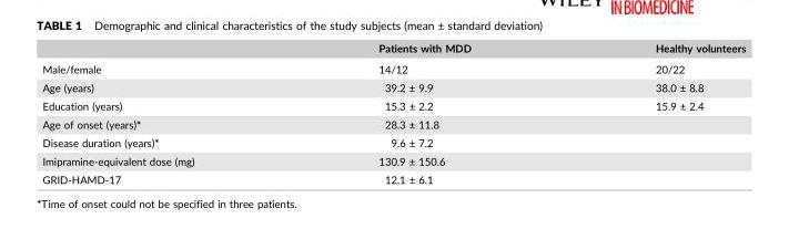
<table><thead><tr><td></td><td>Patients with MDD</td><td>Healthy volunteers</td></tr></thead><tbody><tr><td>Male/female</td><td>14/12</td><td>20/22</td></tr><tr><td>Age (years)</td><td>39.2 ± 9.9</td><td>38.0 ± 8.8</td></tr><tr><td>Education (years)</td><td>15.3 ± 2.2</td><td>15.9 ± 2.4</td></tr><tr><td>Age of onset (years)*</td><td>28.3 ± 11.8</td><td></td></tr><tr><td>Disease duration (years)*</td><td>9.6 ± 7.2</td><td></td></tr><tr><td>Imipramine‐equivalent dose (mg)</td><td>130.9 ± 150.6</td><td></td></tr><tr><td>GRID‐HAMD‐17</td><td>12.1 ± 6.1</td><td></td></tr></tbody></table>